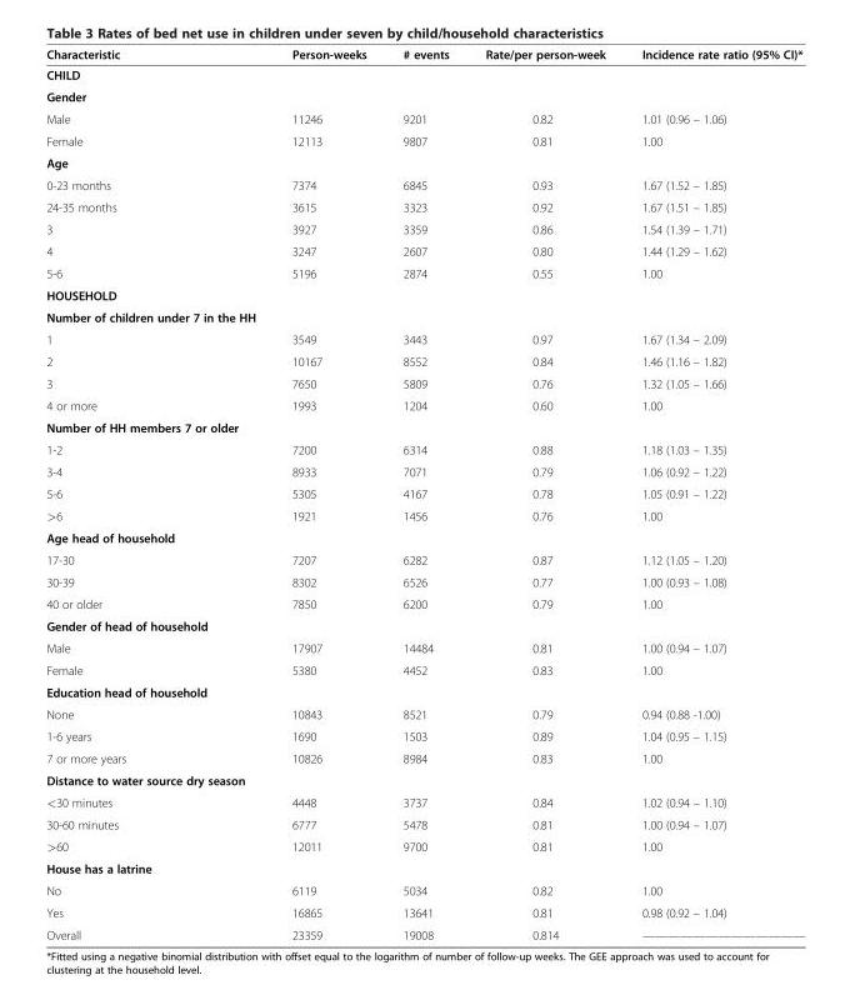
<table><thead><tr><td>Characteristic</td><td>Person-weeks</td><td># events</td><td>Rate/per person-week</td><td>Incidence rate ratio (95% CI)*</td></tr></thead><tbody><tr><td colspan="5">CHILD</td></tr><tr><td colspan="5">Gender</td></tr><tr><td>Male</td><td>11246</td><td>9201</td><td>0.82</td><td>1.01 (0.96 – 1.06)</td></tr><tr><td>Female</td><td>12113</td><td>9807</td><td>0.81</td><td>1.00</td></tr><tr><td colspan="5">Age</td></tr><tr><td>0-23 months</td><td>7374</td><td>6845</td><td>0.93</td><td>1.67 (1.52 – 1.85)</td></tr><tr><td>24-35 months</td><td>3615</td><td>3323</td><td>0.92</td><td>1.67 (1.51 – 1.85)</td></tr><tr><td>3</td><td>3927</td><td>3359</td><td>0.86</td><td>1.54 (1.39 – 1.71)</td></tr><tr><td>4</td><td>3247</td><td>2607</td><td>0.80</td><td>1.44 (1.29 – 1.62)</td></tr><tr><td>5-6</td><td>5196</td><td>2874</td><td>0.55</td><td>1.00</td></tr><tr><td colspan="5">HOUSEHOLD</td></tr><tr><td colspan="5">Number of children under 7 in the HH</td></tr><tr><td>1</td><td>3549</td><td>3443</td><td>0.97</td><td>1.67 (1.34 – 2.09)</td></tr><tr><td>2</td><td>10167</td><td>8552</td><td>0.84</td><td>1.46 (1.16 – 1.82)</td></tr><tr><td>3</td><td>7650</td><td>5809</td><td>0.76</td><td>1.32 (1.05 – 1.66)</td></tr><tr><td>4 or more</td><td>1993</td><td>1204</td><td>0.60</td><td>1.00</td></tr><tr><td colspan="5">Number of HH members 7 or older</td></tr><tr><td>1-2</td><td>7200</td><td>6314</td><td>0.88</td><td>1.18 (1.03 – 1.35)</td></tr><tr><td>3-4</td><td>8933</td><td>7071</td><td>0.79</td><td>1.06 (0.92 – 1.22)</td></tr><tr><td>5-6</td><td>5305</td><td>4167</td><td>0.78</td><td>1.05 (0.91 – 1.22)</td></tr><tr><td>&gt;6</td><td>1921</td><td>1456</td><td>0.76</td><td>1.00</td></tr><tr><td colspan="5">Age head of household</td></tr><tr><td>17-30</td><td>7207</td><td>6282</td><td>0.87</td><td>1.12 (1.05 – 1.20)</td></tr><tr><td>30-39</td><td>8302</td><td>6526</td><td>0.77</td><td>1.00 (0.93 – 1.08)</td></tr><tr><td>40 or older</td><td>7850</td><td>6200</td><td>0.79</td><td>1.00</td></tr><tr><td colspan="5">Gender of head of household</td></tr><tr><td>Male</td><td>17907</td><td>14484</td><td>0.81</td><td>1.00 (0.94 – 1.07)</td></tr><tr><td>Female</td><td>5380</td><td>4452</td><td>0.83</td><td>1.00</td></tr><tr><td colspan="5">Education head of household</td></tr><tr><td>None</td><td>10843</td><td>8521</td><td>0.79</td><td>0.94 (0.88 -1.00)</td></tr><tr><td>1-6 years</td><td>1690</td><td>1503</td><td>0.89</td><td>1.04 (0.95 – 1.15)</td></tr><tr><td>7 or more years</td><td>10826</td><td>8984</td><td>0.83</td><td>1.00</td></tr><tr><td colspan="5">Distance to water source dry season</td></tr><tr><td>&lt;30 minutes</td><td>4448</td><td>3737</td><td>0.84</td><td>1.02 (0.94 – 1.10)</td></tr><tr><td>30-60 minutes</td><td>6777</td><td>5478</td><td>0.81</td><td>1.00 (0.94 – 1.07)</td></tr><tr><td>&gt;60</td><td>12011</td><td>9700</td><td>0.81</td><td>1.00</td></tr><tr><td colspan="5">House has a latrine</td></tr><tr><td>No</td><td>6119</td><td>5034</td><td>0.82</td><td>1.00</td></tr><tr><td>Yes</td><td>16865</td><td>13641</td><td>0.81</td><td>0.98 (0.92 – 1.04)</td></tr><tr><td>Overall</td><td>23359</td><td>19008</td><td>0.814</td><td>—————————————</td></tr></tbody></table>